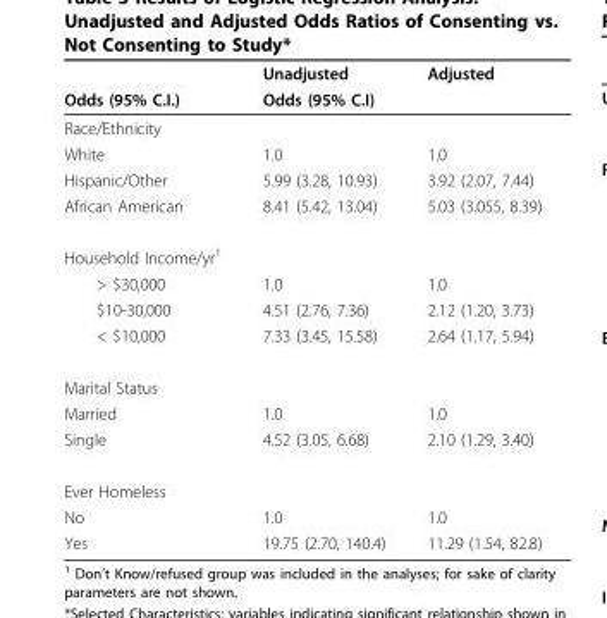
<table><thead><tr><td rowspan="2">Odds (95% C.I.)</td><td rowspan="2">Unadjusted Odds (95% C.I)</td><td rowspan="2">Adjusted</td></tr><tr></tr></thead><tbody><tr><td colspan="3">Race/Ethnicity</td></tr><tr><td>White</td><td>1.0</td><td>1.0</td></tr><tr><td>Hispanic/Other</td><td>5.99 (3.28, 10.93)</td><td>3.92 (2.07, 7.44)</td></tr><tr><td>African American</td><td>8.41 (5.42, 13.04)</td><td>5.03 (3.055, 8.39)</td></tr><tr><td colspan="3">Household Income/yr<sup>1</sup></td></tr><tr><td>&gt; $30,000</td><td>1.0</td><td>1.0</td></tr><tr><td>$10-30,000</td><td>4.51 (2.76, 7.36)</td><td>2.12 (1.20, 3.73)</td></tr><tr><td>&lt; $10,000</td><td>7.33 (3.45, 15.58)</td><td>2.64 (1.17, 5.94)</td></tr><tr><td colspan="3">Marital Status</td></tr><tr><td>Married</td><td>1.0</td><td>1.0</td></tr><tr><td>Single</td><td>4.52 (3.05, 6.68)</td><td>2.10 (1.29, 3.40)</td></tr><tr><td colspan="3">Ever Homeless</td></tr><tr><td>No</td><td>1.0</td><td>1.0</td></tr><tr><td>Yes</td><td>19.75 (2.70, 140.4)</td><td>11.29 (1.54, 82.8)</td></tr></tbody></table>